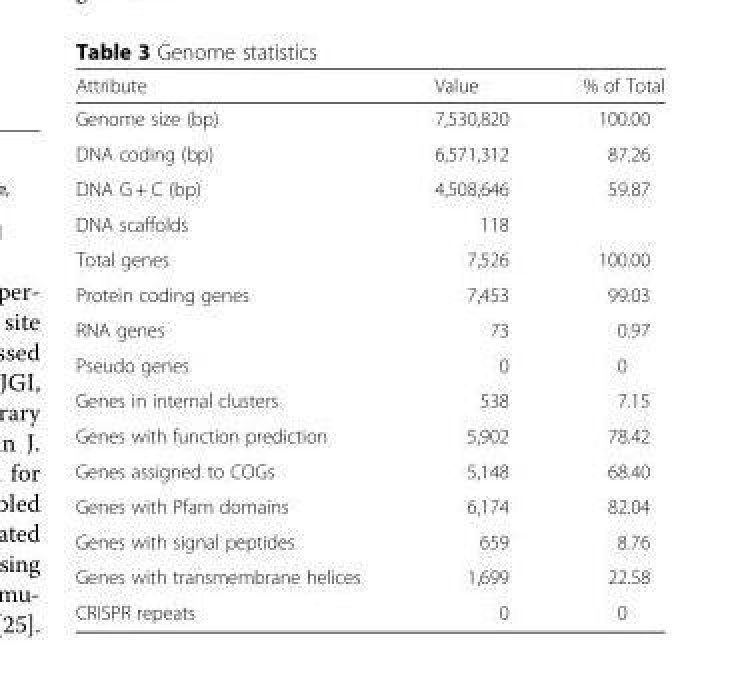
<table><thead><tr><td>Attribute</td><td>Value</td><td>% of Total</td></tr></thead><tbody><tr><td>Genome size (bp)</td><td>7,530,820</td><td>100.00</td></tr><tr><td>DNA coding (bp)</td><td>6,571,312</td><td>87.26</td></tr><tr><td>DNA G + C (bp)</td><td>4,508,646</td><td>59.87</td></tr><tr><td>DNA scaffolds</td><td>118</td><td></td></tr><tr><td>Total genes</td><td>7,526</td><td>100.00</td></tr><tr><td>Protein coding genes</td><td>7,453</td><td>99.03</td></tr><tr><td>RNA genes</td><td>73</td><td>0.97</td></tr><tr><td>Pseudo genes</td><td>0</td><td>0</td></tr><tr><td>Genes in internal clusters</td><td>538</td><td>7.15</td></tr><tr><td>Genes with function prediction</td><td>5,902</td><td>78.42</td></tr><tr><td>Genes assigned to COGs</td><td>5,148</td><td>68.40</td></tr><tr><td>Genes with Pfam domains</td><td>6,174</td><td>82.04</td></tr><tr><td>Genes with signal peptides</td><td>659</td><td>8.76</td></tr><tr><td>Genes with transmembrane helices</td><td>1,699</td><td>22.58</td></tr><tr><td>CRISPR repeats</td><td>0</td><td>0</td></tr></tbody></table>